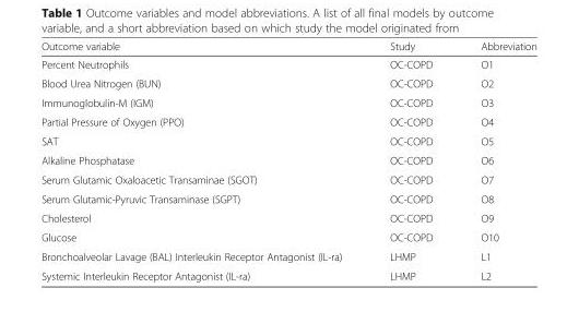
<table><thead><tr><td>Outcome variable</td><td>Study</td><td>Abbreviation</td></tr></thead><tbody><tr><td>Percent Neutrophils</td><td>OC-COPD</td><td>O1</td></tr><tr><td>Blood Urea Nitrogen (BUN)</td><td>OC-COPD</td><td>O2</td></tr><tr><td>Immunoglobulin-M (IGM)</td><td>OC-COPD</td><td>O3</td></tr><tr><td>Partial Pressure of Oxygen (PPO)</td><td>OC-COPD</td><td>O4</td></tr><tr><td>SAT</td><td>OC-COPD</td><td>O5</td></tr><tr><td>Alkaline Phosphatase</td><td>OC-COPD</td><td>O6</td></tr><tr><td>Serum Glutamic Oxaloacetic Transaminae (SGOT)</td><td>OC-COPD</td><td>O7</td></tr><tr><td>Serum Glutamic-Pyruvic Transaminase (SGPT)</td><td>OC-COPD</td><td>O8</td></tr><tr><td>Cholesterol</td><td>OC-COPD</td><td>O9</td></tr><tr><td>Glucose</td><td>OC-COPD</td><td>O10</td></tr><tr><td>Bronchoalveolar Lavage (BAL) Interleukin Receptor Antagonist (IL-ra)</td><td>LHMP</td><td>L1</td></tr><tr><td>Systemic Interleukin Receptor Antagonist (IL-ra)</td><td>LHMP</td><td>L2</td></tr></tbody></table>